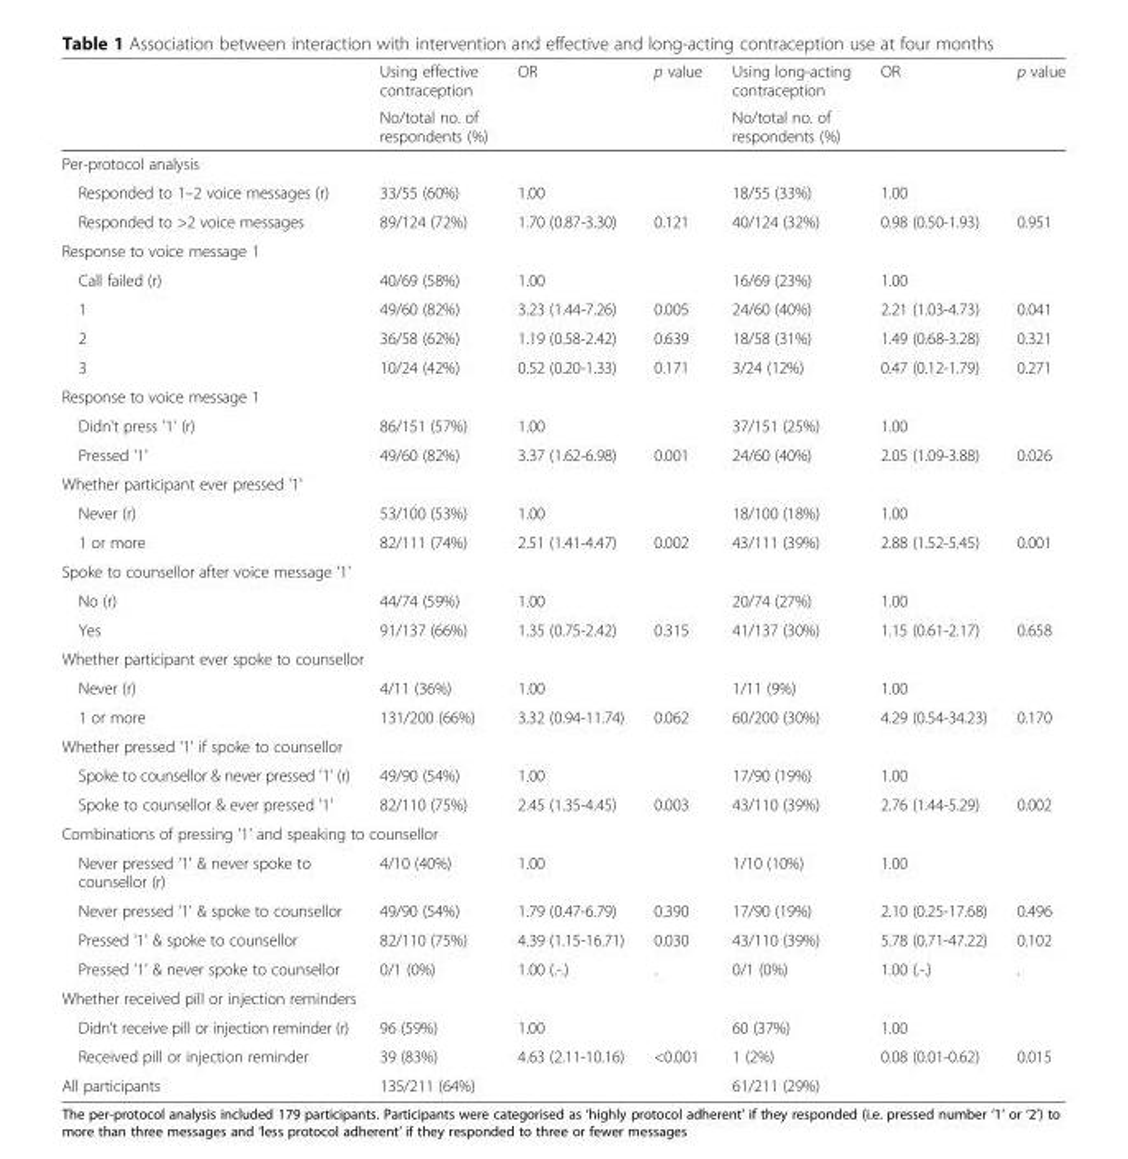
<table><thead><tr><td rowspan="2"></td><td rowspan="2">Using effective contraception No/total no. of respondents (%)</td><td rowspan="2">OR</td><td rowspan="2">p value</td><td rowspan="2">Using long-acting contraception No/total no. of respondents (%)</td><td rowspan="2">OR</td><td rowspan="2">p value</td></tr><tr></tr></thead><tbody><tr><td colspan="7">Per-protocol analysis</td></tr><tr><td>Responded to 1–2 voice messages (r)</td><td>33/55 (60%)</td><td>1.00</td><td></td><td>18/55 (33%)</td><td>1.00</td><td></td></tr><tr><td>Responded to &gt;2 voice messages</td><td>89/124 (72%)</td><td>1.70 (0.87-3.30)</td><td>0.121</td><td>40/124 (32%)</td><td>0.98 (0.50-1.93)</td><td>0.951</td></tr><tr><td colspan="7">Response to voice message 1</td></tr><tr><td>Call failed (r)</td><td>40/69 (58%)</td><td>1.00</td><td></td><td>16/69 (23%)</td><td>1.00</td><td></td></tr><tr><td>1</td><td>49/60 (82%)</td><td>3.23 (1.44-7.26)</td><td>0.005</td><td>24/60 (40%)</td><td>2.21 (1.03-4.73)</td><td>0.041</td></tr><tr><td>2</td><td>36/58 (62%)</td><td>1.19 (0.58-2.42)</td><td>0.639</td><td>18/58 (31%)</td><td>1.49 (0.68-3.28)</td><td>0.321</td></tr><tr><td>3</td><td>10/24 (42%)</td><td>0.52 (0.20-1.33)</td><td>0.171</td><td>3/24 (12%)</td><td>0.47 (0.12-1.79)</td><td>0.271</td></tr><tr><td colspan="7">Response to voice message 1</td></tr><tr><td>Didn&#x27;t press &#x27;1&#x27; (r)</td><td>86/151 (57%)</td><td>1.00</td><td></td><td>37/151 (25%)</td><td>1.00</td><td></td></tr><tr><td>Pressed &#x27;1&#x27;</td><td>49/60 (82%)</td><td>3.37 (1.62-6.98)</td><td>0.001</td><td>24/60 (40%)</td><td>2.05 (1.09-3.88)</td><td>0.026</td></tr><tr><td colspan="7">Whether participant ever pressed &#x27;1&#x27;</td></tr><tr><td>Never (r)</td><td>53/100 (53%)</td><td>1.00</td><td></td><td>18/100 (18%)</td><td>1.00</td><td></td></tr><tr><td>1 or more</td><td>82/111 (74%)</td><td>2.51 (1.41-4.47)</td><td>0.002</td><td>43/111 (39%)</td><td>2.88 (1.52-5.45)</td><td>0.001</td></tr><tr><td colspan="7">Spoke to counsellor after voice message &#x27;1&#x27;</td></tr><tr><td>No (r)</td><td>44/74 (59%)</td><td>1.00</td><td></td><td>20/74 (27%)</td><td>1.00</td><td></td></tr><tr><td>Yes</td><td>91/137 (66%)</td><td>1.35 (0.75-2.42)</td><td>0.315</td><td>41/137 (30%)</td><td>1.15 (0.61-2.17)</td><td>0.658</td></tr><tr><td colspan="7">Whether participant ever spoke to counsellor</td></tr><tr><td>Never (r)</td><td>4/11 (36%)</td><td>1.00</td><td></td><td>1/11 (9%)</td><td>1.00</td><td></td></tr><tr><td>1 or more</td><td>131/200 (66%)</td><td>3.32 (0.94-11.74)</td><td>0.062</td><td>60/200 (30%)</td><td>4.29 (0.54-34.23)</td><td>0.170</td></tr><tr><td colspan="7">Whether pressed &#x27;1&#x27; if spoke to counsellor</td></tr><tr><td>Spoke to counsellor &amp; never pressed &#x27;1&#x27; (r)</td><td>49/90 (54%)</td><td>1.00</td><td></td><td>17/90 (19%)</td><td>1.00</td><td></td></tr><tr><td>Spoke to counsellor &amp; ever pressed &#x27;1&#x27;</td><td>82/110 (75%)</td><td>2.45 (1.35-4.45)</td><td>0.003</td><td>43/110 (39%)</td><td>2.76 (1.44-5.29)</td><td>0.002</td></tr><tr><td colspan="7">Combinations of pressing &#x27;1&#x27; and speaking to counsellor</td></tr><tr><td>Never pressed &#x27;1&#x27; &amp; never spoke to counsellor (r)</td><td>4/10 (40%)</td><td>1.00</td><td></td><td>1/10 (10%)</td><td>1.00</td><td></td></tr><tr><td>Never pressed &#x27;1&#x27; &amp; spoke to counsellor</td><td>49/90 (54%)</td><td>1.79 (0.47-6.79)</td><td>0.390</td><td>17/90 (19%)</td><td>2.10 (0.25-17.68)</td><td>0.496</td></tr><tr><td>Pressed &#x27;1&#x27; &amp; spoke to counsellor</td><td>82/110 (75%)</td><td>4.39 (1.15-16.71)</td><td>0.030</td><td>43/110 (39%)</td><td>5.78 (0.71-47.22)</td><td>0.102</td></tr><tr><td>Pressed &#x27;1&#x27; &amp; never spoke to counsellor</td><td>0/1 (0%)</td><td>1.00 (.-.)</td><td>.</td><td>0/1 (0%)</td><td>1.00 (.-.)</td><td>.</td></tr><tr><td colspan="7">Whether received pill or injection reminders</td></tr><tr><td>Didn’t receive pill or injection reminder (r)</td><td>96 (59%)</td><td>1.00</td><td></td><td>60 (37%)</td><td>1.00</td><td></td></tr><tr><td>Received pill or injection reminder</td><td>39 (83%)</td><td>4.63 (2.11-10.16)</td><td>&lt;0.001</td><td>1 (2%)</td><td>0.08 (0.01-0.62)</td><td>0.015</td></tr><tr><td>All participants</td><td>135/211 (64%)</td><td></td><td></td><td>61/211 (29%)</td><td></td><td></td></tr></tbody></table>